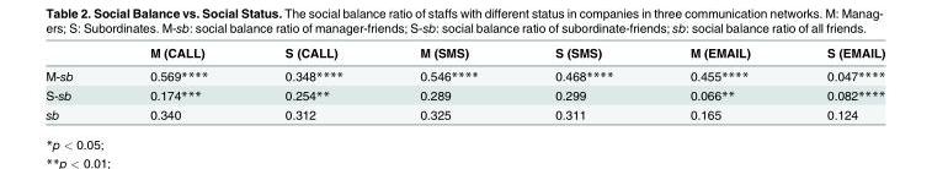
<table><thead><tr><td></td><td>M (CALL)</td><td>S (CALL)</td><td>M (SMS)</td><td>S (SMS)</td><td>M (EMAIL)</td><td>S (EMAIL)</td></tr></thead><tbody><tr><td>M-sb</td><td>0.569****</td><td>0.348****</td><td>0.546****</td><td>0.468****</td><td>0.455****</td><td>0.047****</td></tr><tr><td>S-sb</td><td>0.174***</td><td>0.254**</td><td>0.289</td><td>0.299</td><td>0.066**</td><td>0.082****</td></tr><tr><td>sb</td><td>0.340</td><td>0.312</td><td>0.325</td><td>0.311</td><td>0.165</td><td>0.124</td></tr></tbody></table>